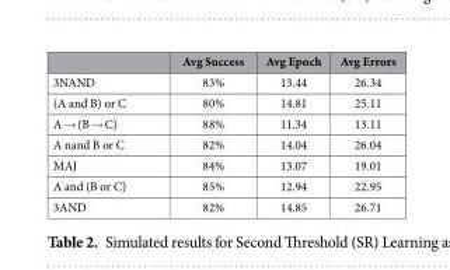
<table><thead><tr><td></td><td>Avg Success</td><td>Avg Epoch</td><td>Avg Errors</td></tr></thead><tbody><tr><td>3NAND</td><td>83%</td><td>13.44</td><td>26.34</td></tr><tr><td>(A and B) or C</td><td>80%</td><td>14.81</td><td>25.11</td></tr><tr><td>A → (B → C)</td><td>88%</td><td>11.34</td><td>13.11</td></tr><tr><td>A nand B or C</td><td>82%</td><td>14.04</td><td>26.04</td></tr><tr><td>MAJ</td><td>84%</td><td>13.07</td><td>19.01</td></tr><tr><td>A and (B or C)</td><td>85%</td><td>12.94</td><td>22.95</td></tr><tr><td>3AND</td><td>82%</td><td>14.85</td><td>26.71</td></tr></tbody></table>